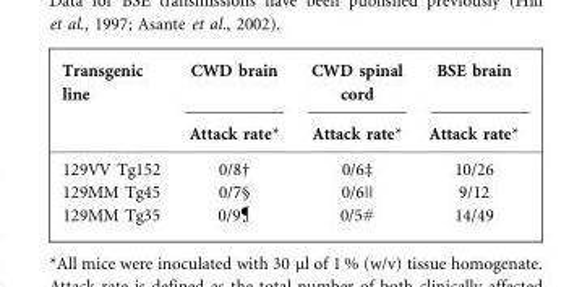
<table><thead><tr><td rowspan="2">Transgenic line</td><td rowspan="2">CWD brain Attack rate*</td><td rowspan="2">CWD spinal cord Attack rate*</td><td rowspan="2">BSE brain Attack rate*</td></tr><tr></tr></thead><tbody><tr><td>129VV Tg152</td><td>0/8†</td><td>0/6‡</td><td>10/26</td></tr><tr><td>129MM Tg45</td><td>0/7§</td><td>0/6||</td><td>9/12</td></tr><tr><td>129MM Tg35</td><td>0/9</td><td>0/5#</td><td>14/49</td></tr></tbody></table>